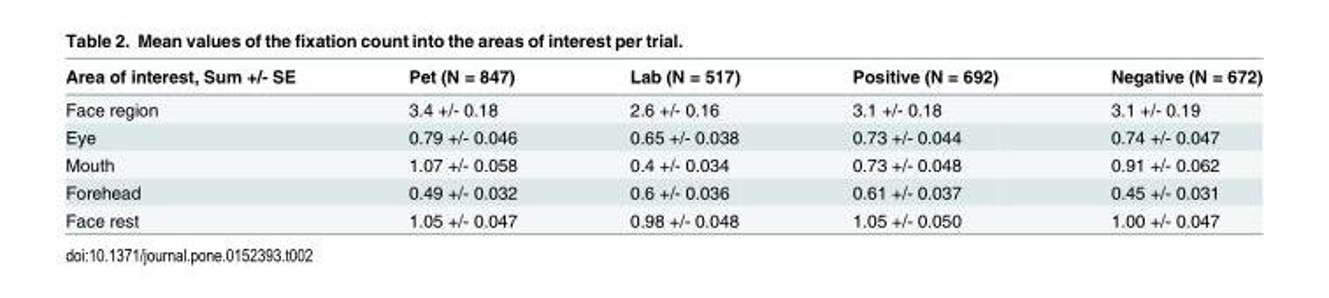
<table><thead><tr><td>Area of interest, Sum +/- SE</td><td>Pet (N = 847)</td><td>Lab (N = 517)</td><td>Positive (N = 692)</td><td>Negative (N = 672)</td></tr></thead><tbody><tr><td>Face region</td><td>3.4 +/- 0.18</td><td>2.6 +/- 0.16</td><td>3.1 +/- 0.18</td><td>3.1 +/- 0.19</td></tr><tr><td>Eye</td><td>0.79 +/- 0.046</td><td>0.65 +/- 0.038</td><td>0.73 +/- 0.044</td><td>0.74 +/- 0.047</td></tr><tr><td>Mouth</td><td>1.07 +/- 0.058</td><td>0.4 +/- 0.034</td><td>0.73 +/- 0.048</td><td>0.91 +/- 0.062</td></tr><tr><td>Forehead</td><td>0.49 +/- 0.032</td><td>0.6 +/- 0.036</td><td>0.61 +/- 0.037</td><td>0.45 +/- 0.031</td></tr><tr><td>Face rest</td><td>1.05 +/- 0.047</td><td>0.98 +/- 0.048</td><td>1.05 +/- 0.050</td><td>1.00 +/- 0.047</td></tr></tbody></table>